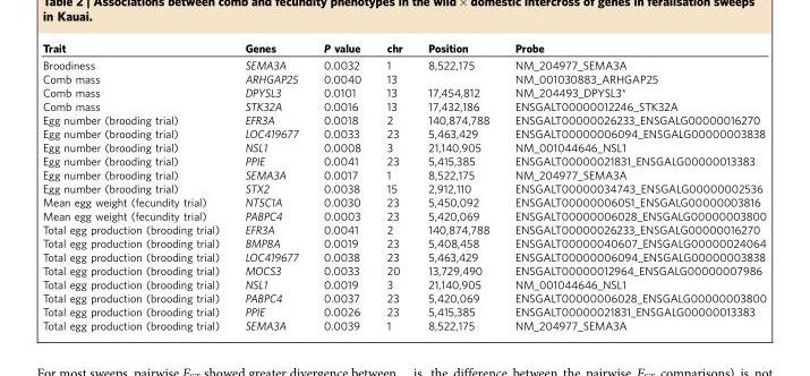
<table><thead><tr><td>Trait</td><td>Genes</td><td>P value</td><td>chr</td><td>Position</td><td>Probe</td></tr></thead><tbody><tr><td>Broodiness</td><td>SEMA3A</td><td>0.0032</td><td>1</td><td>8,522,175</td><td>NM_204977_SEMA3A</td></tr><tr><td>Comb mass</td><td>ARHGAP25</td><td>0.0040</td><td>13</td><td></td><td>NM_001030883_ARHGAP25</td></tr><tr><td>Comb mass</td><td>DPYSL3</td><td>0.0101</td><td>13</td><td>17,454,812</td><td>NM_204493_DPYSL3*</td></tr><tr><td>Comb mass</td><td>STK32A</td><td>0.0016</td><td>13</td><td>17,432,186</td><td>ENSGALT00000012246_STK32A</td></tr><tr><td>Egg number (brooding trial)</td><td>EFR3A</td><td>0.0018</td><td>2</td><td>140,874,788</td><td>ENSGALT00000026233_ENSGALG00000016270</td></tr><tr><td>Egg number (brooding trial)</td><td>LOC419677</td><td>0.0033</td><td>23</td><td>5,463,429</td><td>ENSGALT00000006094_ENSGALG00000003838</td></tr><tr><td>Egg number (brooding trial)</td><td>NSL1</td><td>0.0008</td><td>3</td><td>21,140,905</td><td>NM_001044646_NSL1</td></tr><tr><td>Egg number (brooding trial)</td><td>PPIE</td><td>0.0041</td><td>23</td><td>5,415,385</td><td>ENSGALT00000021831_ENSGALG00000013383</td></tr><tr><td>Egg number (brooding trial)</td><td>SEMA3A</td><td>0.0017</td><td>1</td><td>8,522,175</td><td>NM_204977_SEMA3A</td></tr><tr><td>Egg number (brooding trial)</td><td>STX2</td><td>0.0038</td><td>15</td><td>2,912,110</td><td>ENSGALT00000034743_ENSGALG00000002536</td></tr><tr><td>Mean egg weight (fecundity trial)</td><td>NT5C1A</td><td>0.0030</td><td>23</td><td>5,450,092</td><td>ENSGALT00000006051_ENSGALG00000003816</td></tr><tr><td>Mean egg weight (fecundity trial)</td><td>PABPC4</td><td>0.0003</td><td>23</td><td>5,420,069</td><td>ENSGALT00000006028_ENSGALG00000003800</td></tr><tr><td>Total egg production (brooding trial)</td><td>EFR3A</td><td>0.0041</td><td>2</td><td>140,874,788</td><td>ENSGALT00000026233_ENSGALG00000016270</td></tr><tr><td>Total egg production (brooding trial)</td><td>BMP8A</td><td>0.0019</td><td>23</td><td>5,408,458</td><td>ENSGALT00000040607_ENSGALG00000024064</td></tr><tr><td>Total egg production (brooding trial)</td><td>LOC419677</td><td>0.0038</td><td>23</td><td>5,463,429</td><td>ENSGALT00000006094_ENSGALG00000003838</td></tr><tr><td>Total egg production (brooding trial)</td><td>MOCS3</td><td>0.0033</td><td>20</td><td>13,729,490</td><td>ENSGALT00000012964_ENSGALG00000007986</td></tr><tr><td>Total egg production (brooding trial)</td><td>NSL1</td><td>0.0019</td><td>3</td><td>21,140,905</td><td>NM_001044646_NSL1</td></tr><tr><td>Total egg production (brooding trial)</td><td>PABPC4</td><td>0.0037</td><td>23</td><td>5,420,069</td><td>ENSGALT00000006028_ENSGALG00000003800</td></tr><tr><td>Total egg production (brooding trial)</td><td>PPIE</td><td>0.0026</td><td>23</td><td>5,415,385</td><td>ENSGALT00000021831_ENSGALG00000013383</td></tr><tr><td>Total egg production (brooding trial)</td><td>SEMA3A</td><td>0.0039</td><td>1</td><td>8,522,175</td><td>NM_204977_SEMA3A</td></tr></tbody></table>